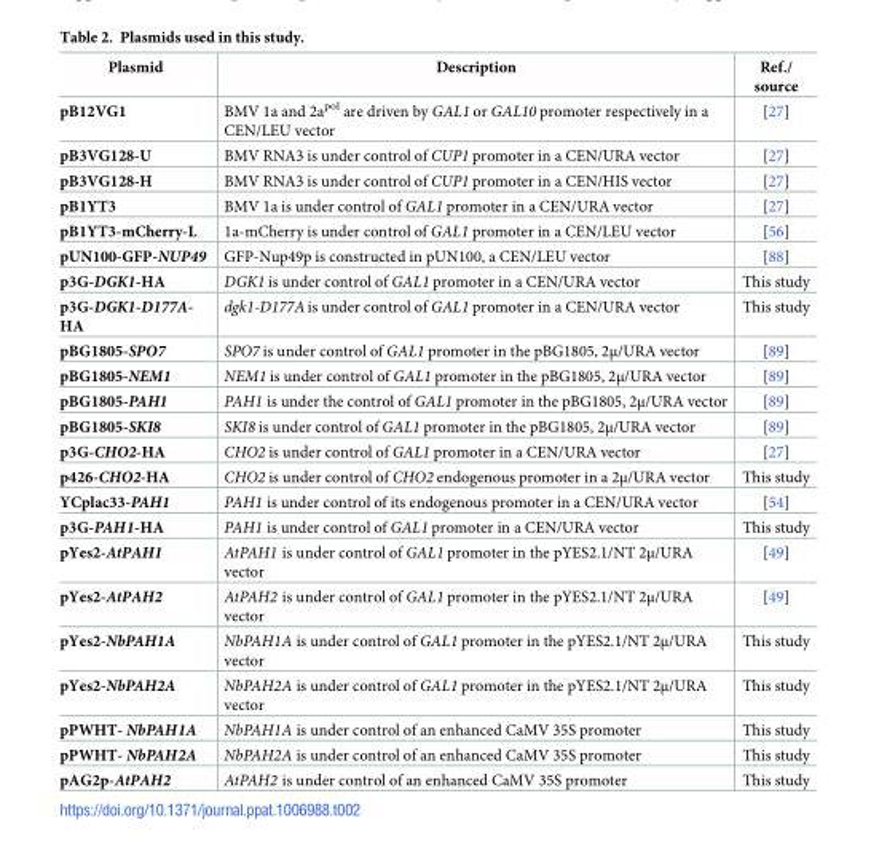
<table><thead><tr><td>Plasmid</td><td>Description</td><td>Ref./ source</td></tr></thead><tbody><tr><td>pB12VG1</td><td>BMV 1a and 2a<sup>pol</sup> are driven by GAL1 or GAL10 promoter respectively in a CEN/LEU vector</td><td>[27]</td></tr><tr><td>pB3VG128-U</td><td>BMV RNA3 is under control of CUP1 promoter in a CEN/URA vector</td><td>[27]</td></tr><tr><td>pB3VG128-H</td><td>BMV RNA3 is under control of CUP1 promoter in a CEN/HIS vector</td><td>[27]</td></tr><tr><td>pB1YT3</td><td>BMV 1a is under control of GAL1 promoter in a CEN/URA vector</td><td>[27]</td></tr><tr><td>pB1YT3-mCherry-L</td><td>1a-mCherry is under control of GAL1 promoter in a CEN/LEU vector</td><td>[56]</td></tr><tr><td>pUN100-GFP-NUP49</td><td>GFP-Nup49p is constructed in pUN100, a CEN/LEU vector</td><td>[88]</td></tr><tr><td>p3G-DGK1-HA</td><td>DGK1 is under control of GAL1 promoter in a CEN/URA vector</td><td>This study</td></tr><tr><td>p3G-DGK1-D177A- HA</td><td>dgk1-D177A is under control of GAL1 promoter in a CEN/URA vector</td><td>This study</td></tr><tr><td>pBG1805-SPO7</td><td>SPO7 is under control of GAL1 promoter in the pBG1805, 2μ/URA vector</td><td>[89]</td></tr><tr><td>pBG1805-NEM1</td><td>NEM1 is under control of GAL1 promoter in the pBG1805, 2μ/URA vector</td><td>[89]</td></tr><tr><td>pBG1805-PAH1</td><td>PAH1 is under the control of GAL1 promoter in the pBG1805, 2μ/URA vector</td><td>[89]</td></tr><tr><td>pBG1805-SKI8</td><td>SKI8 is under control of GAL1 promoter in the pBG1805, 2μ/URA vector</td><td>[89]</td></tr><tr><td>p3G-CHO2-HA</td><td>CHO2 is under control of GAL1 promoter in a CEN/URA vector</td><td>[27]</td></tr><tr><td>p426-CHO2-HA</td><td>CHO2 is under control of CHO2 endogenous promoter in a 2μ/URA vector</td><td>This study</td></tr><tr><td>YCplac33-PAH1</td><td>PAH1 is under control of its endogenous promoter in a CEN/URA vector</td><td>[54]</td></tr><tr><td>p3G-PAH1-HA</td><td>PAH1 is under control of GAL1 promoter in a CEN/URA vector</td><td>This study</td></tr><tr><td>pYes2-AtPAH1</td><td>AtPAH1 is under control of GAL1 promoter in the pYES2.1/NT 2μ/URA vector</td><td>[49]</td></tr><tr><td>pYes2-AtPAH2</td><td>AtPAH2 is under control of GAL1 promoter in the pYES2.1/NT 2μ/URA vector</td><td>[49]</td></tr><tr><td>pYes2-NbPAH1A</td><td>NbPAH1A is under control of GAL1 promoter in the pYES2.1/NT 2μ/URA vector</td><td>This study</td></tr><tr><td>pYes2-NbPAH2A</td><td>NbPAH2A is under control of GAL1 promoter in the pYES2.1/NT 2μ/URA vector</td><td>This study</td></tr><tr><td>pPWHT- NbPAH1A</td><td>NbPAH1A is under control of an enhanced CaMV 35S promoter</td><td>This study</td></tr><tr><td>pPWHT- NbPAH2A</td><td>NbPAH2A is under control of an enhanced CaMV 35S promoter</td><td>This study</td></tr><tr><td>pAG2p-AtPAH2</td><td>AtPAH2 is under control of an enhanced CaMV 35S promoter</td><td>This study</td></tr></tbody></table>